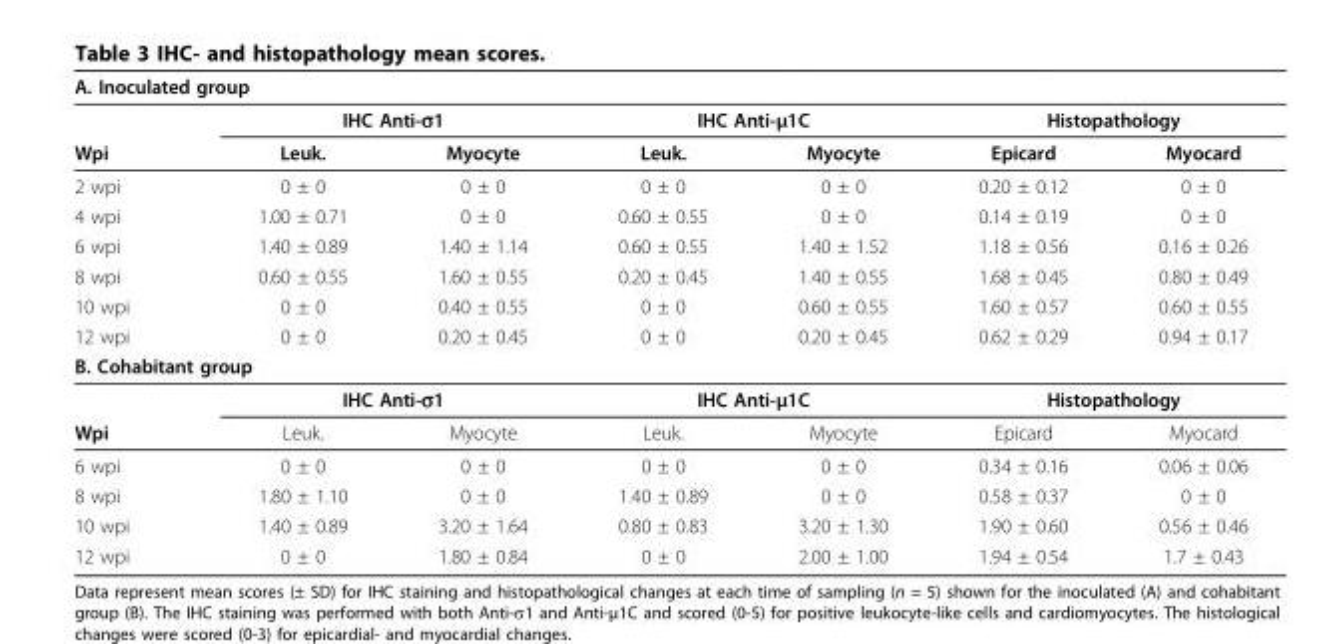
<table><thead><tr><td colspan="7">A. Inoculated group</td></tr><tr><td rowspan="2">Wpi</td><td colspan="2">IHC Anti-σ1</td><td colspan="2">IHC Anti-μ1C</td><td colspan="2">Histopathology</td></tr><tr><td>Leuk.</td><td>Myocyte</td><td>Leuk.</td><td>Myocyte</td><td>Epicard</td><td>Myocard</td></tr></thead><tbody><tr><td>2 wpi</td><td>0 ± 0</td><td>0 ± 0</td><td>0 ± 0</td><td>0 ± 0</td><td>0.20 ± 0.12</td><td>0 ± 0</td></tr><tr><td>4 wpi</td><td>1.00 ± 0.71</td><td>0 ± 0</td><td>0.60 ± 0.55</td><td>0 ± 0</td><td>0.14 ± 0.19</td><td>0 ± 0</td></tr><tr><td>6 wpi</td><td>1.40 ± 0.89</td><td>1.40 ± 1.14</td><td>0.60 ± 0.55</td><td>1.40 ± 1.52</td><td>1.18 ± 0.56</td><td>0.16 ± 0.26</td></tr><tr><td>8 wpi</td><td>0.60 ± 0.55</td><td>1.60 ± 0.55</td><td>0.20 ± 0.45</td><td>1.40 ± 0.55</td><td>1.68 ± 0.45</td><td>0.80 ± 0.49</td></tr><tr><td>10 wpi</td><td>0 ± 0</td><td>0.40 ± 0.55</td><td>0 ± 0</td><td>0.60 ± 0.55</td><td>1.60 ± 0.57</td><td>0.60 ± 0.55</td></tr><tr><td>12 wpi</td><td>0 ± 0</td><td>0.20 ± 0.45</td><td>0 ± 0</td><td>0.20 ± 0.45</td><td>0.62 ± 0.29</td><td>0.94 ± 0.17</td></tr><tr><td colspan="7">B. Cohabitant group</td></tr><tr><td></td><td colspan="2">IHC Anti-σ1</td><td colspan="2">IHC Anti-μ1C</td><td colspan="2">Histopathology</td></tr><tr><td>Wpi</td><td>Leuk.</td><td>Myocyte</td><td>Leuk.</td><td>Myocyte</td><td>Epicard</td><td>Myocard</td></tr><tr><td>6 wpi</td><td>0 ± 0</td><td>0 ± 0</td><td>0 ± 0</td><td>0 ± 0</td><td>0.34 ± 0.16</td><td>0.06 ± 0.06</td></tr><tr><td>8 wpi</td><td>1.80 ± 1.10</td><td>0 ± 0</td><td>1.40 ± 0.89</td><td>0 ± 0</td><td>0.58 ± 0.37</td><td>0 ± 0</td></tr><tr><td>10 wpi</td><td>1.40 ± 0.89</td><td>3.20 ± 1.64</td><td>0.80 ± 0.83</td><td>3.20 ± 1.30</td><td>1.90 ± 0.60</td><td>0.56 ± 0.46</td></tr><tr><td>12 wpi</td><td>0 ± 0</td><td>1.80 ± 0.84</td><td>0 ± 0</td><td>2.00 ± 1.00</td><td>1.94 ± 0.54</td><td>1.7 ± 0.43</td></tr></tbody></table>